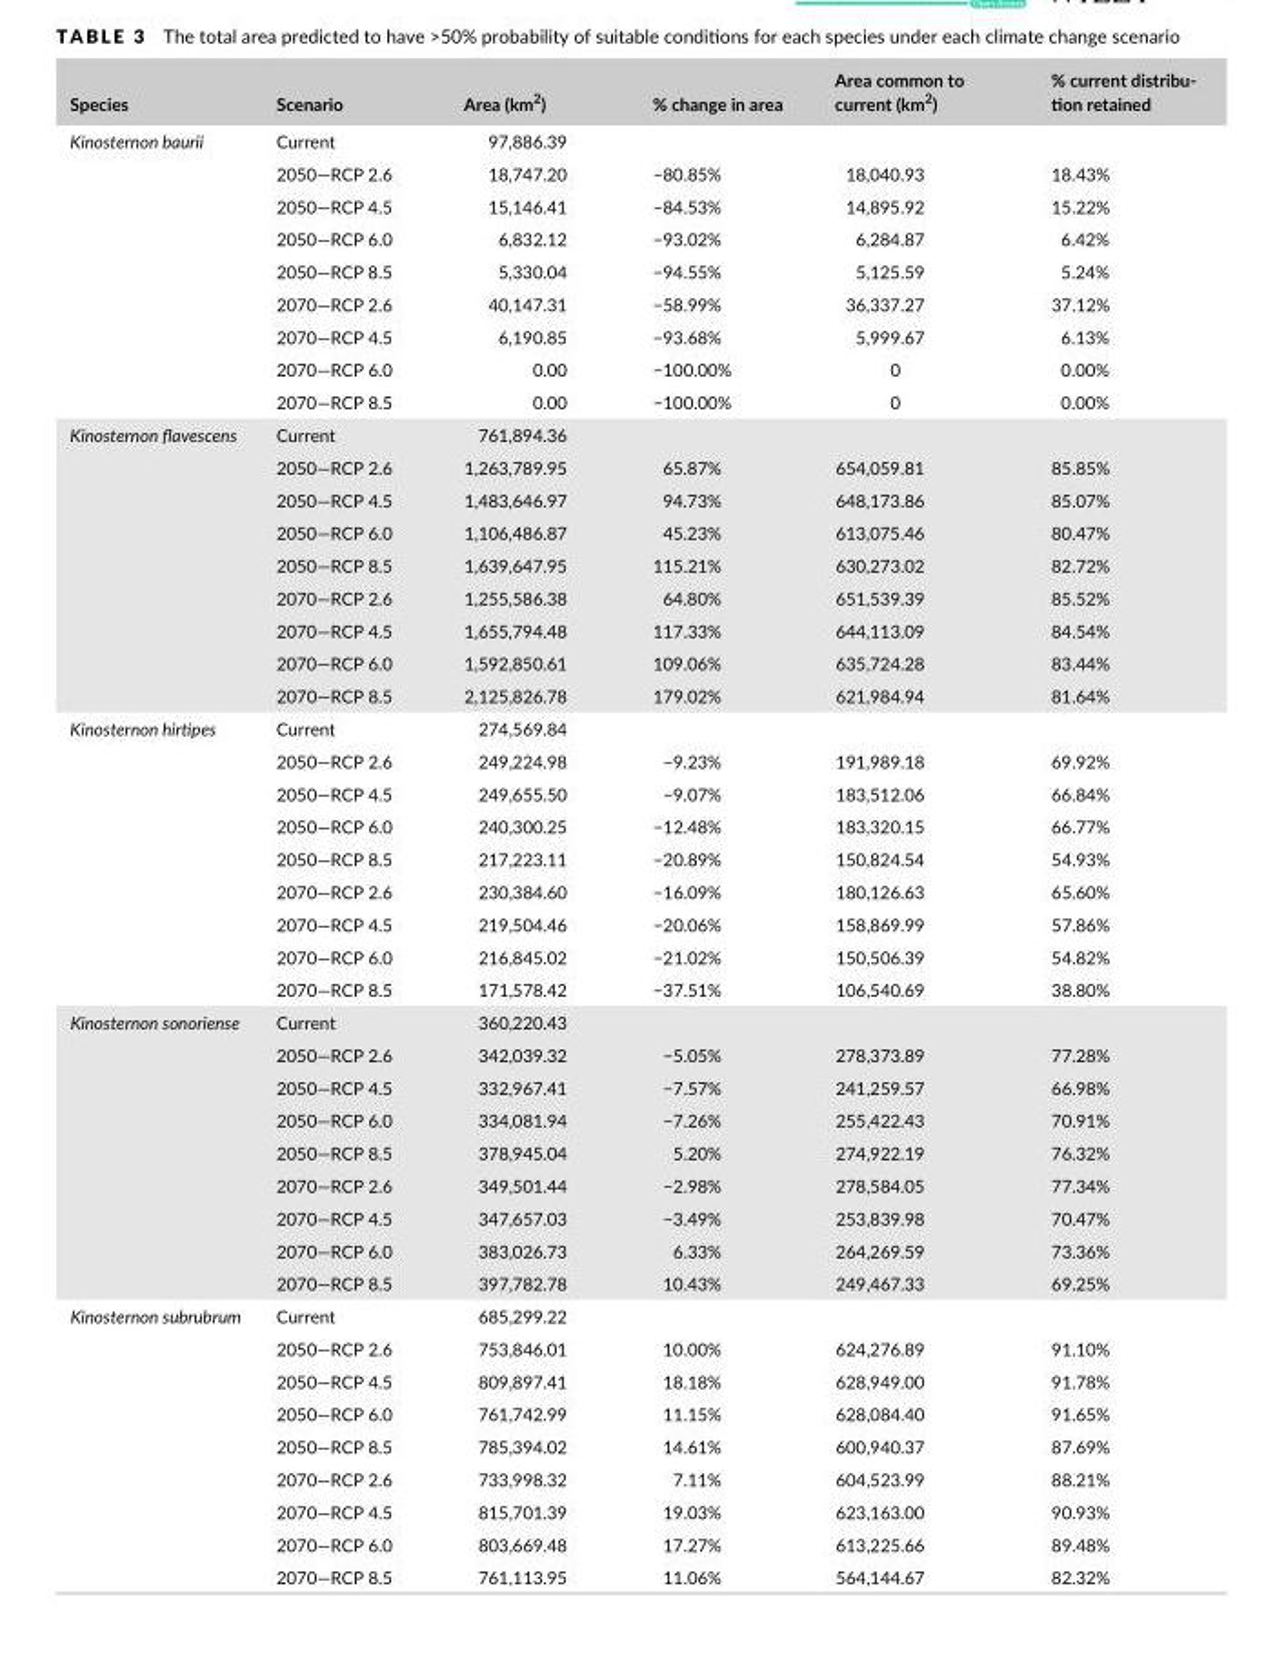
<table><thead><tr><td>Species</td><td>Scenario</td><td>Area (km<sup>2</sup>)</td><td>% change in area</td><td>Area common to current (km<sup>2</sup>)</td><td>% current distribu- tion retained</td></tr></thead><tbody><tr><td rowspan="9">Kinosternon baurii</td><td>Current</td><td>97,886.39</td><td></td><td></td><td></td></tr><tr><td>2050—RCP 2.6</td><td>18,747.20</td><td>−80.85%</td><td>18,040.93</td><td>18.43%</td></tr><tr><td>2050—RCP 4.5</td><td>15,146.41</td><td>−84.53%</td><td>14,895.92</td><td>15.22%</td></tr><tr><td>2050—RCP 6.0</td><td>6,832.12</td><td>−93.02%</td><td>6,284.87</td><td>6.42%</td></tr><tr><td>2050—RCP 8.5</td><td>5,330.04</td><td>−94.55%</td><td>5,125.59</td><td>5.24%</td></tr><tr><td>2070—RCP 2.6</td><td>40,147.31</td><td>−58.99%</td><td>36,337.27</td><td>37.12%</td></tr><tr><td>2070—RCP 4.5</td><td>6,190.85</td><td>−93.68%</td><td>5,999.67</td><td>6.13%</td></tr><tr><td>2070—RCP 6.0</td><td>0.00</td><td>−100.00%</td><td>0</td><td>0.00%</td></tr><tr><td>2070—RCP 8.5</td><td>0.00</td><td>−100.00%</td><td>0</td><td>0.00%</td></tr><tr><td rowspan="9">Kinosternon flavescens</td><td>Current</td><td>761,894.36</td><td></td><td></td><td></td></tr><tr><td>2050—RCP 2.6</td><td>1,263,789.95</td><td>65.87%</td><td>654,059.81</td><td>85.85%</td></tr><tr><td>2050—RCP 4.5</td><td>1,483,646.97</td><td>94.73%</td><td>648,173.86</td><td>85.07%</td></tr><tr><td>2050—RCP 6.0</td><td>1,106,486.87</td><td>45.23%</td><td>613,075.46</td><td>80.47%</td></tr><tr><td>2050—RCP 8.5</td><td>1,639,647.95</td><td>115.21%</td><td>630,273.02</td><td>82.72%</td></tr><tr><td>2070—RCP 2.6</td><td>1,255,586.38</td><td>64.80%</td><td>651,539.39</td><td>85.52%</td></tr><tr><td>2070—RCP 4.5</td><td>1,655,794.48</td><td>117.33%</td><td>644,113.09</td><td>84.54%</td></tr><tr><td>2070—RCP 6.0</td><td>1,592,850.61</td><td>109.06%</td><td>635,724.28</td><td>83.44%</td></tr><tr><td>2070—RCP 8.5</td><td>2,125,826.78</td><td>179.02%</td><td>621,984.94</td><td>81.64%</td></tr><tr><td rowspan="9">Kinosternon hirtipes</td><td>Current</td><td>274,569.84</td><td></td><td></td><td></td></tr><tr><td>2050—RCP 2.6</td><td>249,224.98</td><td>−9.23%</td><td>191,989.18</td><td>69.92%</td></tr><tr><td>2050—RCP 4.5</td><td>249,655.50</td><td>−9.07%</td><td>183,512.06</td><td>66.84%</td></tr><tr><td>2050—RCP 6.0</td><td>240,300.25</td><td>−12.48%</td><td>183,320.15</td><td>66.77%</td></tr><tr><td>2050—RCP 8.5</td><td>217,223.11</td><td>−20.89%</td><td>150,824.54</td><td>54.93%</td></tr><tr><td>2070—RCP 2.6</td><td>230,384.60</td><td>−16.09%</td><td>180,126.63</td><td>65.60%</td></tr><tr><td>2070—RCP 4.5</td><td>219,504.46</td><td>−20.06%</td><td>158,869.99</td><td>57.86%</td></tr><tr><td>2070—RCP 6.0</td><td>216,845.02</td><td>−21.02%</td><td>150,506.39</td><td>54.82%</td></tr><tr><td>2070—RCP 8.5</td><td>171,578.42</td><td>−37.51%</td><td>106,540.69</td><td>38.80%</td></tr><tr><td rowspan="9">Kinosternon sonoriense</td><td>Current</td><td>360,220.43</td><td></td><td></td><td></td></tr><tr><td>2050—RCP 2.6</td><td>342,039.32</td><td>−5.05%</td><td>278,373.89</td><td>77.28%</td></tr><tr><td>2050—RCP 4.5</td><td>332,967.41</td><td>−7.57%</td><td>241,259.57</td><td>66.98%</td></tr><tr><td>2050—RCP 6.0</td><td>334,081.94</td><td>−7.26%</td><td>255,422.43</td><td>70.91%</td></tr><tr><td>2050—RCP 8.5</td><td>378,945.04</td><td>5.20%</td><td>274,922.19</td><td>76.32%</td></tr><tr><td>2070—RCP 2.6</td><td>349,501.44</td><td>−2.98%</td><td>278,584.05</td><td>77.34%</td></tr><tr><td>2070—RCP 4.5</td><td>347,657.03</td><td>−3.49%</td><td>253,839.98</td><td>70.47%</td></tr><tr><td>2070—RCP 6.0</td><td>383,026.73</td><td>6.33%</td><td>264,269.59</td><td>73.36%</td></tr><tr><td>2070—RCP 8.5</td><td>397,782.78</td><td>10.43%</td><td>249,467.33</td><td>69.25%</td></tr><tr><td rowspan="9">Kinosternon subrubrum</td><td>Current</td><td>685,299.22</td><td></td><td></td><td></td></tr><tr><td>2050—RCP 2.6</td><td>753,846.01</td><td>10.00%</td><td>624,276.89</td><td>91.10%</td></tr><tr><td>2050—RCP 4.5</td><td>809,897.41</td><td>18.18%</td><td>628,949.00</td><td>91.78%</td></tr><tr><td>2050—RCP 6.0</td><td>761,742.99</td><td>11.15%</td><td>628,084.40</td><td>91.65%</td></tr><tr><td>2050—RCP 8.5</td><td>785,394.02</td><td>14.61%</td><td>600,940.37</td><td>87.69%</td></tr><tr><td>2070—RCP 2.6</td><td>733,998.32</td><td>7.11%</td><td>604,523.99</td><td>88.21%</td></tr><tr><td>2070—RCP 4.5</td><td>815,701.39</td><td>19.03%</td><td>623,163.00</td><td>90.93%</td></tr><tr><td>2070—RCP 6.0</td><td>803,669.48</td><td>17.27%</td><td>613,225.66</td><td>89.48%</td></tr><tr><td>2070—RCP 8.5</td><td>761,113.95</td><td>11.06%</td><td>564,144.67</td><td>82.32%</td></tr></tbody></table>